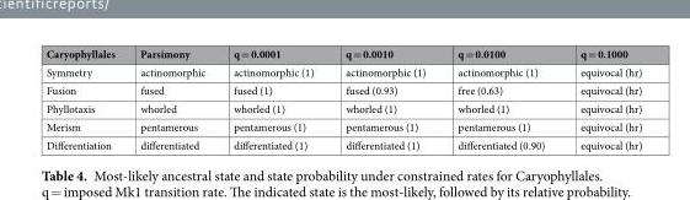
<table><thead><tr><td>Caryophyllales</td><td>Parsimony</td><td>q = 0.0001</td><td>q = 0.0010</td><td>q = 0.0100</td><td>q = 0.1000</td></tr></thead><tbody><tr><td>Symmetry</td><td>actinomorphic</td><td>actinomorphic (1)</td><td>actinomorphic (1)</td><td>actinomorphic (1)</td><td>equivocal (hr)</td></tr><tr><td>Fusion</td><td>fused</td><td>fused (1)</td><td>fused (0.93)</td><td>free (0.63)</td><td>equivocal (hr)</td></tr><tr><td>Phyllotaxis</td><td>whorled</td><td>whorled (1)</td><td>whorled (1)</td><td>whorled (1)</td><td>equivocal (hr)</td></tr><tr><td>Merism</td><td>pentamerous</td><td>pentamerous (1)</td><td>pentamerous (1)</td><td>pentamerous (1)</td><td>equivocal (hr)</td></tr><tr><td>Differentiation</td><td>differentiated</td><td>differentiated (1)</td><td>differentiated (1)</td><td>differentiated (0.90)</td><td>equivocal (hr)</td></tr></tbody></table>